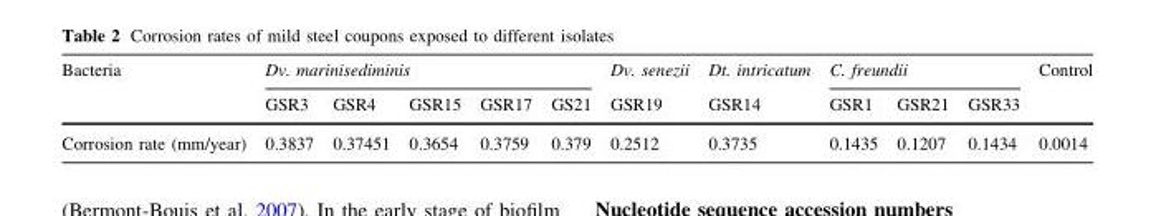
<table><thead><tr><td rowspan="2">Bacteria</td><td colspan="5">Dv. marinisediminis</td><td rowspan="2">Dv. senezii GSR19</td><td rowspan="2">Dt. intricatum GSR14</td><td colspan="3">C. freundii</td><td rowspan="2">Control</td></tr><tr><td>GSR3</td><td>GSR4</td><td>GSR15</td><td>GSR17</td><td>GS21</td><td>GSR1</td><td>GSR21</td><td>GSR33</td></tr></thead><tbody><tr><td>Corrosion rate (mm/year)</td><td>0.3837</td><td>0.37451</td><td>0.3654</td><td>0.3759</td><td>0.379</td><td>0.2512</td><td>0.3735</td><td>0.1435</td><td>0.1207</td><td>0.1434</td><td>0.0014</td></tr></tbody></table>